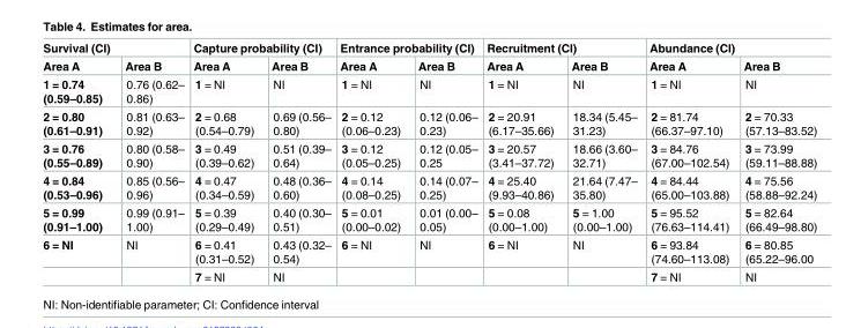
<table><thead><tr><td colspan="2">Survival (CI)</td><td colspan="2">Capture probability (CI)</td><td colspan="2">Entrance probability (CI)</td><td colspan="2">Recruitment (CI)</td><td colspan="2">Abundance (CI)</td></tr><tr><td>Area A</td><td>Area B</td><td>Area A</td><td>Area B</td><td>Area A</td><td>Area B</td><td>Area A</td><td>Area B</td><td>Area A</td><td>Area B</td></tr></thead><tbody><tr><td>1 = 0.74 (0.59–0.85)</td><td>0.76 (0.62– 0.86)</td><td>1 = NI</td><td>NI</td><td>1 = NI</td><td>NI</td><td>1 = NI</td><td>NI</td><td>1 = NI</td><td>NI</td></tr><tr><td>2 = 0.80 (0.61–0.91)</td><td>0.81 (0.63– 0.92)</td><td>2 = 0.68 (0.54–0.79)</td><td>0.69 (0.56– 0.80)</td><td>2 = 0.12 (0.06–0.23)</td><td>0.12 (0.06– 0.23)</td><td>2 = 20.91 (6.17–35.66)</td><td>18.34 (5.45– 31.23)</td><td>2 = 81.74 (66.37–97.10)</td><td>2 = 70.33 (57.13–83.52)</td></tr><tr><td>3 = 0.76 (0.55–0.89)</td><td>0.80 (0.58– 0.90)</td><td>3 = 0.49 (0.39–0.62)</td><td>0.51 (0.39– 0.64)</td><td>3 = 0.12 (0.05–0.25)</td><td>0.12 (0.05– 0.25</td><td>3 = 20.57 (3.41–37.72)</td><td>18.66 (3.60– 32.71)</td><td>3 = 84.76 (67.00–102.54)</td><td>3 = 73.99 (59.11–88.88)</td></tr><tr><td>4 = 0.84 (0.53–0.96)</td><td>0.85 (0.56– 0.96)</td><td>4 = 0.47 (0.34–0.59)</td><td>0.48 (0.36– 0.60)</td><td>4 = 0.14 (0.08–0.25)</td><td>0.14 (0.07– 0.25)</td><td>4 = 25.40 (9.93–40.86)</td><td>21.64 (7.47– 35.80)</td><td>4 = 84.44 (65.00–103.88)</td><td>4 = 75.56 (58.88–92.24)</td></tr><tr><td>5 = 0.99 (0.91–1.00)</td><td>0.99 (0.91– 1.00)</td><td>5 = 0.39 (0.29–0.49)</td><td>0.40 (0.30– 0.51)</td><td>5 = 0.01 (0.00–0.02)</td><td>0.01 (0.00– 0.05)</td><td>5 = 0.08 (0.00–1.00)</td><td>5 = 1.00 (0.00–1.00)</td><td>5 = 95.52 (76.63–114.41)</td><td>5 = 82.64 (66.49–98.80)</td></tr><tr><td rowspan="2">6 = NI</td><td>NI</td><td>6 = 0.41 (0.31–0.52)</td><td>0.43 (0.32– 0.54)</td><td>6 = NI</td><td>NI</td><td>6 = NI</td><td>NI</td><td>6 = 93.84 (74.60–113.08)</td><td>6 = 80.85 (65.22–96.00</td></tr><tr><td></td><td>7 = NI</td><td>NI</td><td></td><td></td><td></td><td></td><td>7 = NI</td><td>NI</td></tr></tbody></table>